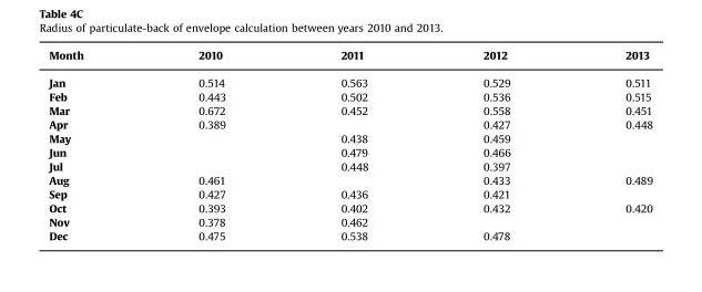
<table><thead><tr><td>Month</td><td>2010</td><td>2011</td><td>2012</td><td>2013</td></tr></thead><tbody><tr><td>Jan</td><td>0.514</td><td>0.563</td><td>0.529</td><td>0.511</td></tr><tr><td>Feb</td><td>0.443</td><td>0.502</td><td>0.536</td><td>0.515</td></tr><tr><td>Mar</td><td>0.672</td><td>0.452</td><td>0.558</td><td>0.451</td></tr><tr><td>Apr</td><td>0.389</td><td></td><td>0.427</td><td>0.448</td></tr><tr><td>May</td><td></td><td>0.438</td><td>0.459</td><td></td></tr><tr><td>Jun</td><td></td><td>0.479</td><td>0.466</td><td></td></tr><tr><td>Jul</td><td></td><td>0.448</td><td>0.397</td><td></td></tr><tr><td>Aug</td><td>0.461</td><td></td><td>0.433</td><td>0.489</td></tr><tr><td>Sep</td><td>0.427</td><td>0.436</td><td>0.421</td><td></td></tr><tr><td>Oct</td><td>0.393</td><td>0.402</td><td>0.432</td><td>0.420</td></tr><tr><td>Nov</td><td>0.378</td><td>0.462</td><td></td><td></td></tr><tr><td>Dec</td><td>0.475</td><td>0.538</td><td>0.478</td><td></td></tr></tbody></table>